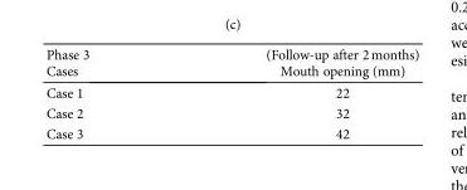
<table><thead><tr><td rowspan="2">Phase 3 Cases</td><td rowspan="2">(Follow-up after 2 months) Mouth opening (mm)</td></tr><tr></tr></thead><tbody><tr><td>Case 1</td><td>22</td></tr><tr><td>Case 2</td><td>32</td></tr><tr><td>Case 3</td><td>42</td></tr></tbody></table>